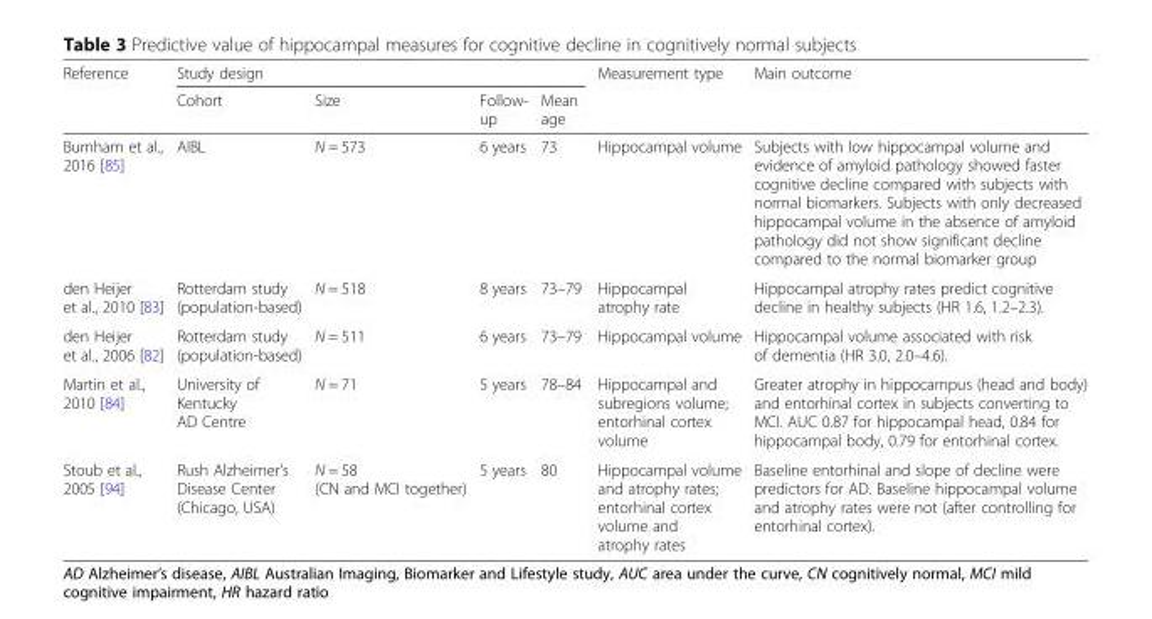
<table><thead><tr><td rowspan="2">Reference</td><td colspan="4">Study design</td><td rowspan="2">Measurement type</td><td rowspan="2">Main outcome</td></tr><tr><td>Cohort</td><td>Size</td><td>Follow- up</td><td>Mean age</td></tr></thead><tbody><tr><td>Burnham et al., 2016 [85]</td><td>AIBL</td><td>N = 573</td><td>6 years</td><td>73</td><td>Hippocampal volume</td><td>Subjects with low hippocampal volume and evidence of amyloid pathology showed faster cognitive decline compared with subjects with normal biomarkers. Subjects with only decreased hippocampal volume in the absence of amyloid pathology did not show significant decline compared to the normal biomarker group</td></tr><tr><td>den Heijer et al., 2010 [83]</td><td>Rotterdam study (population-based)</td><td>N = 518</td><td>8 years</td><td>73–79</td><td>Hippocampal atrophy rate</td><td>Hippocampal atrophy rates predict cognitive decline in healthy subjects (HR 1.6, 1.2–2.3).</td></tr><tr><td>den Heijer et al., 2006 [82]</td><td>Rotterdam study (population-based)</td><td>N = 511</td><td>6 years</td><td>73–79</td><td>Hippocampal volume</td><td>Hippocampal volume associated with risk of dementia (HR 3.0, 2.0–4.6).</td></tr><tr><td>Martin et al., 2010 [84]</td><td>University of Kentucky AD Centre</td><td>N = 71</td><td>5 years</td><td>78–84</td><td>Hippocampal and subregions volume; entorhinal cortex volume</td><td>Greater atrophy in hippocampus (head and body) and entorhinal cortex in subjects converting to MCI. AUC 0.87 for hippocampal head, 0.84 for hippocampal body, 0.79 for entorhinal cortex.</td></tr><tr><td>Stoub et al., 2005 [94]</td><td>Rush Alzheimer’s Disease Center (Chicago, USA)</td><td>N = 58 (CN and MCI together)</td><td>5 years</td><td>80</td><td>Hippocampal volume and atrophy rates; entorhinal cortex volume and atrophy rates</td><td>Baseline entorhinal and slope of decline were predictors for AD. Baseline hippocampal volume and atrophy rates were not (after controlling for entorhinal cortex).</td></tr></tbody></table>